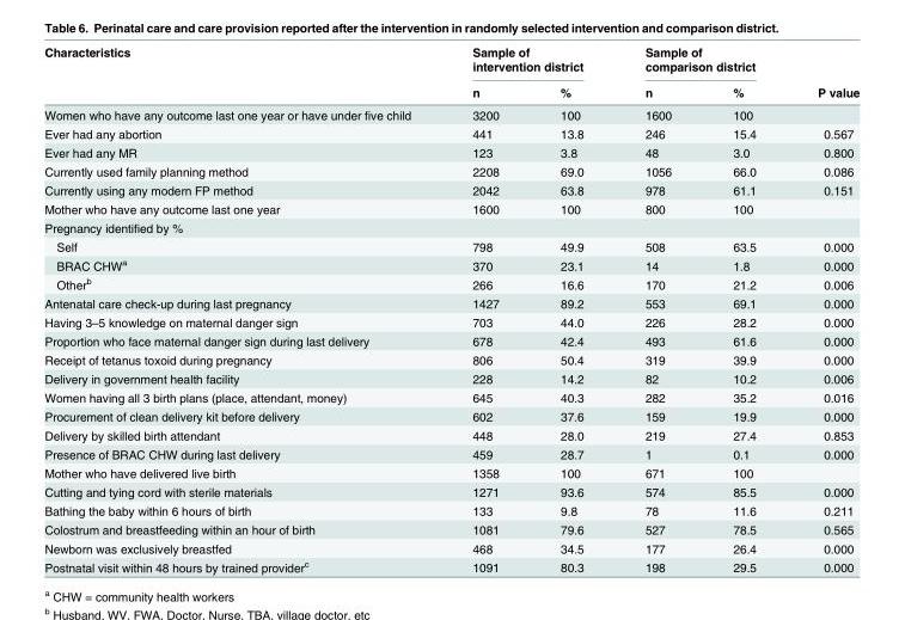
<table><thead><tr><td rowspan="2">Characteristics</td><td colspan="2">Sample of intervention district</td><td colspan="2">Sample of comparison district</td><td rowspan="2">P value</td></tr><tr><td>n</td><td>%</td><td>n</td><td>%</td></tr></thead><tbody><tr><td>Women who have any outcome last one year or have under five child</td><td>3200</td><td>100</td><td>1600</td><td>100</td><td></td></tr><tr><td>Ever had any abortion</td><td>441</td><td>13.8</td><td>246</td><td>15.4</td><td>0.567</td></tr><tr><td>Ever had any MR</td><td>123</td><td>3.8</td><td>48</td><td>3.0</td><td>0.800</td></tr><tr><td>Currently used family planning method</td><td>2208</td><td>69.0</td><td>1056</td><td>66.0</td><td>0.086</td></tr><tr><td>Currently using any modern FP method</td><td>2042</td><td>63.8</td><td>978</td><td>61.1</td><td>0.151</td></tr><tr><td>Mother who have any outcome last one year</td><td>1600</td><td>100</td><td>800</td><td>100</td><td></td></tr><tr><td colspan="6">Pregnancy identified by %</td></tr><tr><td>Self</td><td>798</td><td>49.9</td><td>508</td><td>63.5</td><td>0.000</td></tr><tr><td>BRAC CHW<sup>a</sup></td><td>370</td><td>23.1</td><td>14</td><td>1.8</td><td>0.000</td></tr><tr><td>Other<sup>b</sup></td><td>266</td><td>16.6</td><td>170</td><td>21.2</td><td>0.006</td></tr><tr><td>Antenatal care check-up during last pregnancy</td><td>1427</td><td>89.2</td><td>553</td><td>69.1</td><td>0.000</td></tr><tr><td>Having 3–5 knowledge on maternal danger sign</td><td>703</td><td>44.0</td><td>226</td><td>28.2</td><td>0.000</td></tr><tr><td>Proportion who face maternal danger sign during last delivery</td><td>678</td><td>42.4</td><td>493</td><td>61.6</td><td>0.000</td></tr><tr><td>Receipt of tetanus toxoid during pregnancy</td><td>806</td><td>50.4</td><td>319</td><td>39.9</td><td>0.000</td></tr><tr><td>Delivery in government health facility</td><td>228</td><td>14.2</td><td>82</td><td>10.2</td><td>0.006</td></tr><tr><td>Women having all 3 birth plans (place, attendant, money)</td><td>645</td><td>40.3</td><td>282</td><td>35.2</td><td>0.016</td></tr><tr><td>Procurement of clean delivery kit before delivery</td><td>602</td><td>37.6</td><td>159</td><td>19.9</td><td>0.000</td></tr><tr><td>Delivery by skilled birth attendant</td><td>448</td><td>28.0</td><td>219</td><td>27.4</td><td>0.853</td></tr><tr><td>Presence of BRAC CHW during last delivery</td><td>459</td><td>28.7</td><td>1</td><td>0.1</td><td>0.000</td></tr><tr><td>Mother who have delivered live birth</td><td>1358</td><td>100</td><td>671</td><td>100</td><td></td></tr><tr><td>Cutting and tying cord with sterile materials</td><td>1271</td><td>93.6</td><td>574</td><td>85.5</td><td>0.000</td></tr><tr><td>Bathing the baby within 6 hours of birth</td><td>133</td><td>9.8</td><td>78</td><td>11.6</td><td>0.211</td></tr><tr><td>Colostrum and breastfeeding within an hour of birth</td><td>1081</td><td>79.6</td><td>527</td><td>78.5</td><td>0.565</td></tr><tr><td>Newborn was exclusively breastfed</td><td>468</td><td>34.5</td><td>177</td><td>26.4</td><td>0.000</td></tr><tr><td>Postnatal visit within 48 hours by trained provider<sup>c</sup></td><td>1091</td><td>80.3</td><td>198</td><td>29.5</td><td>0.000</td></tr></tbody></table>